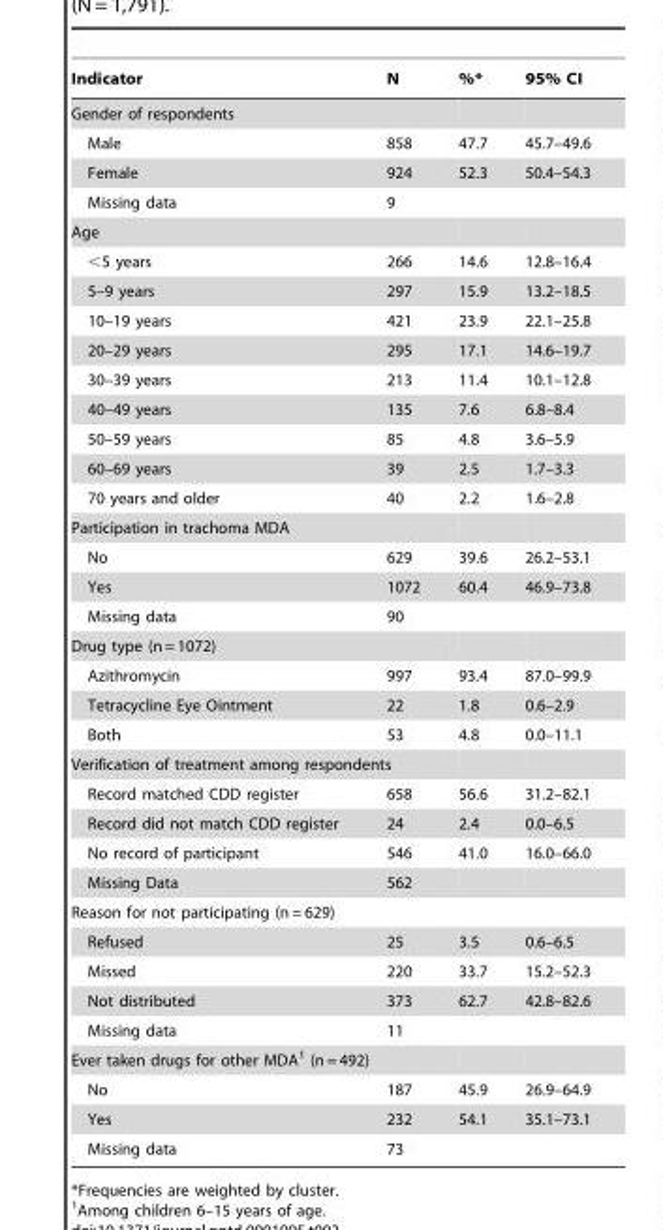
<table><thead><tr><td>Indicator</td><td>N</td><td>%*</td><td>95% CI</td></tr></thead><tbody><tr><td colspan="4">Gender of respondents</td></tr><tr><td>Male</td><td>858</td><td>47.7</td><td>45.7–49.6</td></tr><tr><td>Female</td><td>924</td><td>52.3</td><td>50.4–54.3</td></tr><tr><td>Missing data</td><td>9</td><td></td><td></td></tr><tr><td colspan="4">Age</td></tr><tr><td>&lt;5 years</td><td>266</td><td>14.6</td><td>12.8–16.4</td></tr><tr><td>5–9 years</td><td>297</td><td>15.9</td><td>13.2–18.5</td></tr><tr><td>10–19 years</td><td>421</td><td>23.9</td><td>22.1–25.8</td></tr><tr><td>20–29 years</td><td>295</td><td>17.1</td><td>14.6–19.7</td></tr><tr><td>30–39 years</td><td>213</td><td>11.4</td><td>10.1–12.8</td></tr><tr><td>40–49 years</td><td>135</td><td>7.6</td><td>6.8–8.4</td></tr><tr><td>50–59 years</td><td>85</td><td>4.8</td><td>3.6–5.9</td></tr><tr><td>60–69 years</td><td>39</td><td>2.5</td><td>1.7–3.3</td></tr><tr><td>70 years and older</td><td>40</td><td>2.2</td><td>1.6–2.8</td></tr><tr><td colspan="4">Participation in trachoma MDA</td></tr><tr><td>No</td><td>629</td><td>39.6</td><td>26.2–53.1</td></tr><tr><td>Yes</td><td>1072</td><td>60.4</td><td>46.9–73.8</td></tr><tr><td>Missing data</td><td>90</td><td></td><td></td></tr><tr><td colspan="4">Drug type (n = 1072)</td></tr><tr><td>Azithromycin</td><td>997</td><td>93.4</td><td>87.0–99.9</td></tr><tr><td>Tetracycline Eye Ointment</td><td>22</td><td>1.8</td><td>0.6–2.9</td></tr><tr><td>Both</td><td>53</td><td>4.8</td><td>0.0–11.1</td></tr><tr><td colspan="4">Verification of treatment among respondents</td></tr><tr><td>Record matched CDD register</td><td>658</td><td>56.6</td><td>31.2–82.1</td></tr><tr><td>Record did not match CDD register</td><td>24</td><td>2.4</td><td>0.0–6.5</td></tr><tr><td>No record of participant</td><td>546</td><td>41.0</td><td>16.0–66.0</td></tr><tr><td>Missing Data</td><td>562</td><td></td><td></td></tr><tr><td colspan="4">Reason for not participating (n = 629)</td></tr><tr><td>Refused</td><td>25</td><td>3.5</td><td>0.6–6.5</td></tr><tr><td>Missed</td><td>220</td><td>33.7</td><td>15.2–52.3</td></tr><tr><td>Not distributed</td><td>373</td><td>62.7</td><td>42.8–82.6</td></tr><tr><td>Missing data</td><td>11</td><td></td><td></td></tr><tr><td colspan="4">Ever taken drugs for other MDA<sup>1</sup> (n = 492)</td></tr><tr><td>No</td><td>187</td><td>45.9</td><td>26.9–64.9</td></tr><tr><td>Yes</td><td>232</td><td>54.1</td><td>35.1–73.1</td></tr><tr><td>Missing data</td><td>73</td><td></td><td></td></tr></tbody></table>